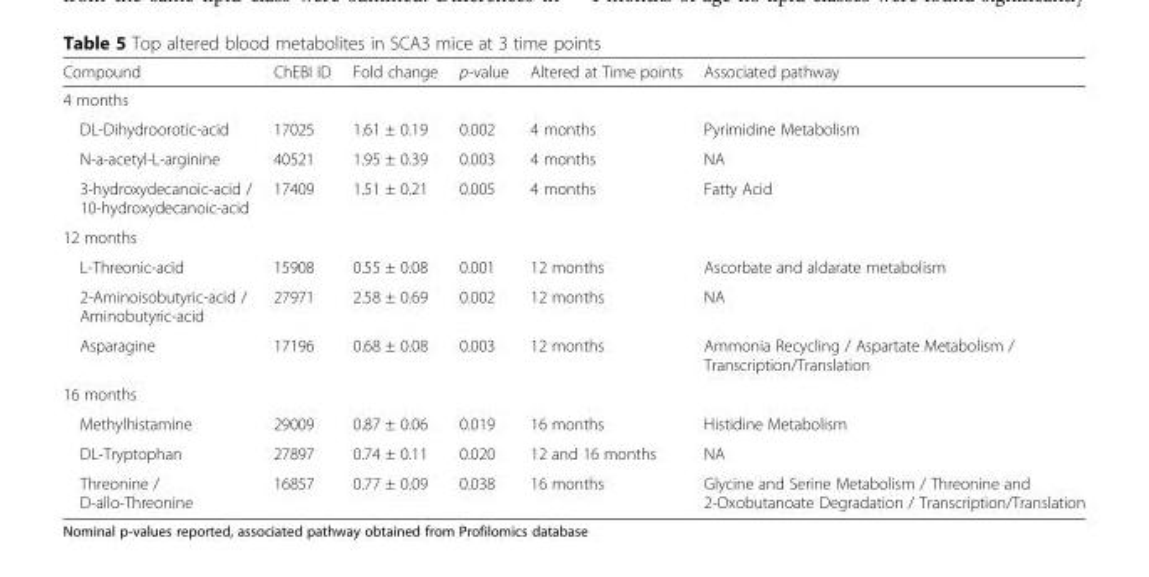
<table><thead><tr><td>Compound</td><td>ChEBI ID</td><td>Fold change</td><td>p-value</td><td>Altered at Time points</td><td>Associated pathway</td></tr></thead><tbody><tr><td colspan="6">4 months</td></tr><tr><td>DL-Dihydroorotic-acid</td><td>17025</td><td>1.61 ± 0.19</td><td>0.002</td><td>4 months</td><td>Pyrimidine Metabolism</td></tr><tr><td>N-a-acetyl-L-arginine</td><td>40521</td><td>1.95 ± 0.39</td><td>0.003</td><td>4 months</td><td>NA</td></tr><tr><td>3-hydroxydecanoic-acid / 10-hydroxydecanoic-acid</td><td>17409</td><td>1.51 ± 0.21</td><td>0.005</td><td>4 months</td><td>Fatty Acid</td></tr><tr><td colspan="6">12 months</td></tr><tr><td>L-Threonic-acid</td><td>15908</td><td>0.55 ± 0.08</td><td>0.001</td><td>12 months</td><td>Ascorbate and aldarate metabolism</td></tr><tr><td>2-Aminoisobutyric-acid / Aminobutyric-acid</td><td>27971</td><td>2.58 ± 0.69</td><td>0.002</td><td>12 months</td><td>NA</td></tr><tr><td>Asparagine</td><td>17196</td><td>0.68 ± 0.08</td><td>0.003</td><td>12 months</td><td>Ammonia Recycling / Aspartate Metabolism / Transcription/Translation</td></tr><tr><td colspan="6">16 months</td></tr><tr><td>Methylhistamine</td><td>29009</td><td>0.87 ± 0.06</td><td>0.019</td><td>16 months</td><td>Histidine Metabolism</td></tr><tr><td>DL-Tryptophan</td><td>27897</td><td>0.74 ± 0.11</td><td>0.020</td><td>12 and 16 months</td><td>NA</td></tr><tr><td>Threonine / D-allo-Threonine</td><td>16857</td><td>0.77 ± 0.09</td><td>0.038</td><td>16 months</td><td>Glycine and Serine Metabolism / Threonine and 2-Oxobutanoate Degradation / Transcription/Translation</td></tr></tbody></table>